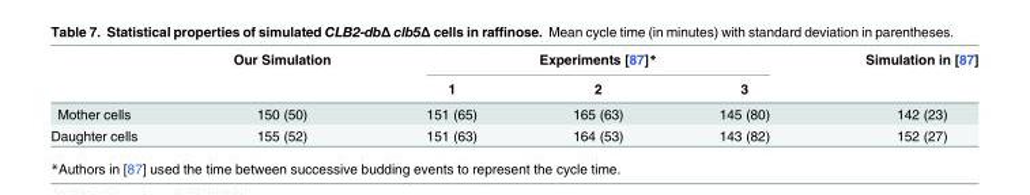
<table><thead><tr><td rowspan="2"></td><td rowspan="2">Our Simulation</td><td colspan="3">Experiments [87]*</td><td rowspan="2">Simulation in [87]</td></tr><tr><td>1</td><td>2</td><td>3</td></tr></thead><tbody><tr><td>Mother cells</td><td>150 (50)</td><td>151 (65)</td><td>165 (63)</td><td>145 (80)</td><td>142 (23)</td></tr><tr><td>Daughter cells</td><td>155 (52)</td><td>151 (63)</td><td>164 (53)</td><td>143 (82)</td><td>152 (27)</td></tr></tbody></table>